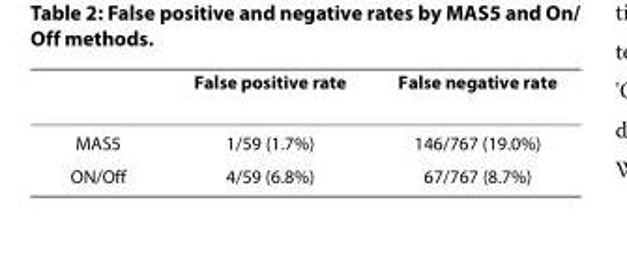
<table><thead><tr><td></td><td>False positive rate</td><td>False negative rate</td></tr></thead><tbody><tr><td>MAS5</td><td>1/59 (1.7%)</td><td>146/767 (19.0%)</td></tr><tr><td>ON/Off</td><td>4/59 (6.8%)</td><td>67/767 (8.7%)</td></tr></tbody></table>